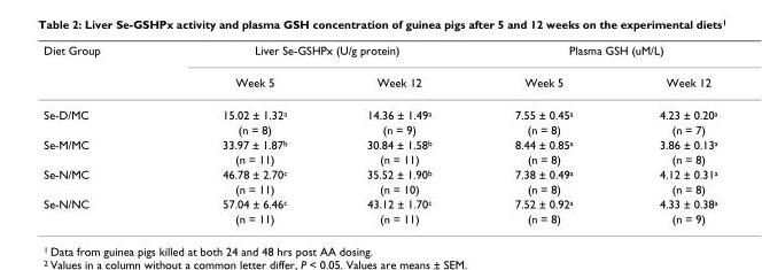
<table><thead><tr><td rowspan="2">Diet Group</td><td colspan="2">Liver Se-GSHPx (U/g protein)</td><td colspan="2">Plasma GSH (uM/L)</td></tr><tr><td>Week 5</td><td>Week 12</td><td>Week 5</td><td>Week 12</td></tr></thead><tbody><tr><td rowspan="2">Se-D/MC</td><td>15.02 ± 1.32<sup>a</sup></td><td>14.36 ± 1.49<sup>a</sup></td><td>7.55 ± 0.45<sup>a</sup></td><td>4.23 ± 0.20<sup>a</sup></td></tr><tr><td>(n = 8)</td><td>(n = 9)</td><td>(n = 8)</td><td>(n = 7)</td></tr><tr><td rowspan="2">Se-M/MC</td><td>33.97 ± 1.87<sup>b</sup></td><td>30.84 ± 1.58<sup>b</sup></td><td>8.44 ± 0.85<sup>a</sup></td><td>3.86 ± 0.13<sup>a</sup></td></tr><tr><td>(n = 11)</td><td>(n = 11)</td><td>(n = 8)</td><td>(n = 8)</td></tr><tr><td rowspan="2">Se-N/MC</td><td>46.78 ± 2.70<sup>c</sup></td><td>35.52 ± 1.90<sup>b</sup></td><td>7.38 ± 0.49<sup>a</sup></td><td>4.12 ± 0.31<sup>a</sup></td></tr><tr><td>(n = 11)</td><td>(n = 10)</td><td>(n = 8)</td><td>(n = 8)</td></tr><tr><td rowspan="2">Se-N/NC</td><td>57.04 ± 6.46<sup>c</sup></td><td>43.12 ± 1.70<sup>c</sup></td><td>7.52 ± 0.92<sup>a</sup></td><td>4.33 ± 0.38<sup>a</sup></td></tr><tr><td>(n = 11)</td><td>(n = 11)</td><td>(n = 8)</td><td>(n = 9)</td></tr></tbody></table>